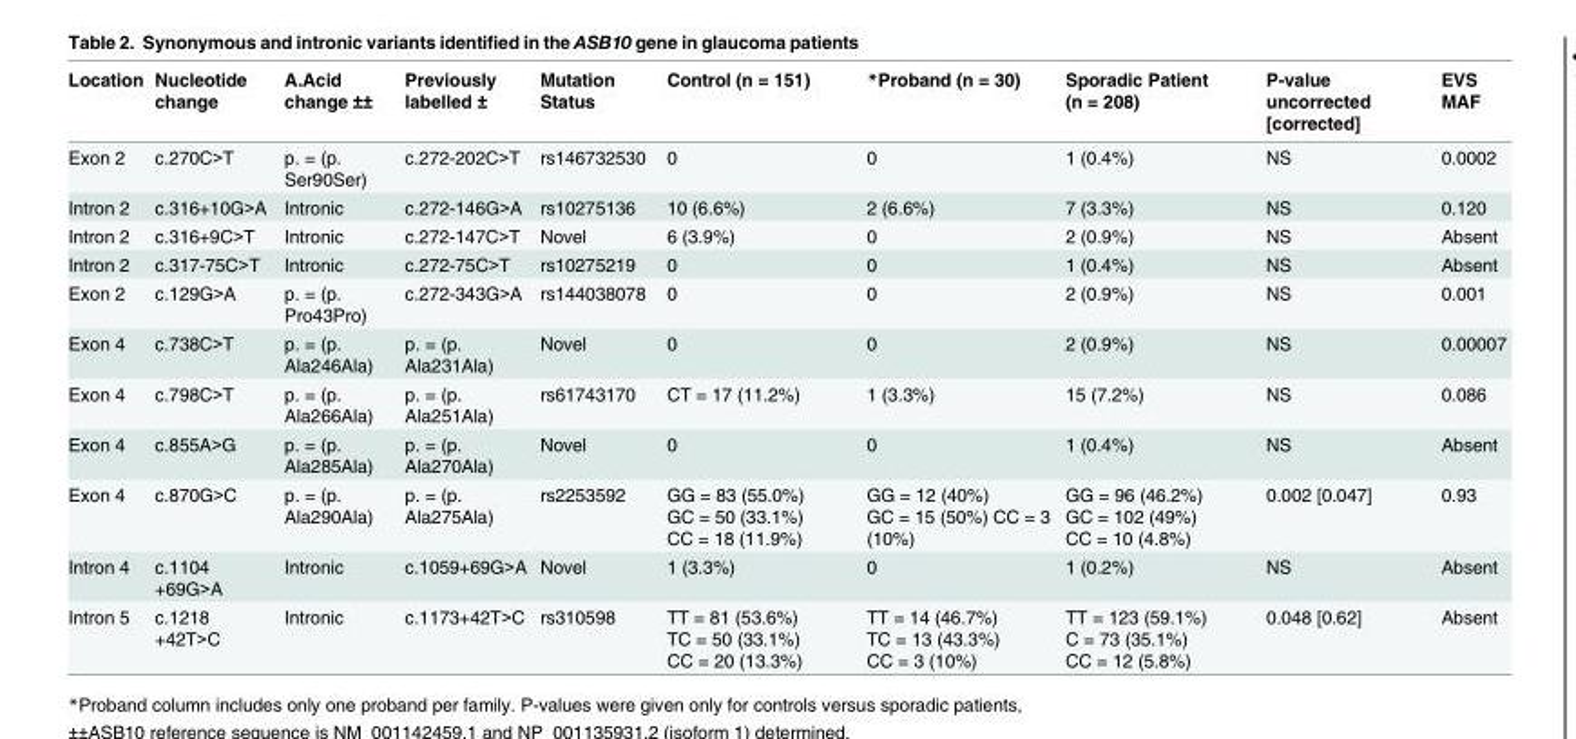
<table><thead><tr><td>Location</td><td>Nucleotide change</td><td>A.Acid change ±±</td><td>Previously labelled ±</td><td>Mutation Status</td><td>Control (n = 151)</td><td>*Proband (n = 30)</td><td>Sporadic Patient (n = 208)</td><td>P-value uncorrected [corrected]</td><td>EVS MAF</td></tr></thead><tbody><tr><td>Exon 2</td><td>c.270C&gt;T</td><td>p. = (p. Ser90Ser)</td><td>c.272-202C&gt;T</td><td>rs146732530</td><td>0</td><td>0</td><td>1 (0.4%)</td><td>NS</td><td>0.0002</td></tr><tr><td>Intron 2</td><td>c.316+10G&gt;A</td><td>Intronic</td><td>c.272-146G&gt;A</td><td>rs10275136</td><td>10 (6.6%)</td><td>2 (6.6%)</td><td>7 (3.3%)</td><td>NS</td><td>0.120</td></tr><tr><td>Intron 2</td><td>c.316+9C&gt;T</td><td>Intronic</td><td>c.272-147C&gt;T</td><td>Novel</td><td>6 (3.9%)</td><td>0</td><td>2 (0.9%)</td><td>NS</td><td>Absent</td></tr><tr><td>Intron 2</td><td>c.317-75C&gt;T</td><td>Intronic</td><td>c.272-75C&gt;T</td><td>rs10275219</td><td>0</td><td>0</td><td>1 (0.4%)</td><td>NS</td><td>Absent</td></tr><tr><td>Exon 2</td><td>c.129G&gt;A</td><td>p. = (p. Pro43Pro)</td><td>c.272-343G&gt;A</td><td>rs144038078</td><td>0</td><td>0</td><td>2 (0.9%)</td><td>NS</td><td>0.001</td></tr><tr><td>Exon 4</td><td>c.738C&gt;T</td><td>p. = (p. Ala246Ala)</td><td>p. = (p. Ala231Ala)</td><td>Novel</td><td>0</td><td>0</td><td>2 (0.9%)</td><td>NS</td><td>0.00007</td></tr><tr><td>Exon 4</td><td>c.798C&gt;T</td><td>p. = (p. Ala266Ala)</td><td>p. = (p. Ala251Ala)</td><td>rs61743170</td><td>CT = 17 (11.2%)</td><td>1 (3.3%)</td><td>15 (7.2%)</td><td>NS</td><td>0.086</td></tr><tr><td>Exon 4</td><td>c.855A&gt;G</td><td>p. = (p. Ala285Ala)</td><td>p. = (p. Ala270Ala)</td><td>Novel</td><td>0</td><td>0</td><td>1 (0.4%)</td><td>NS</td><td>Absent</td></tr><tr><td>Exon 4</td><td>c.870G&gt;C</td><td>p. = (p. Ala290Ala)</td><td>p. = (p. Ala275Ala)</td><td>rs2253592</td><td>GG = 83 (55.0%) GC = 50 (33.1%) CC = 18 (11.9%)</td><td>GG = 12 (40%) GC = 15 (50%) CC = 3 (10%)</td><td>GG = 96 (46.2%) GC = 102 (49%) CC = 10 (4.8%)</td><td>0.002 [0.047]</td><td>0.93</td></tr><tr><td>Intron 4</td><td>c.1104 +69G&gt;A</td><td>Intronic</td><td>c.1059+69G&gt;A</td><td>Novel</td><td>1 (3.3%)</td><td>0</td><td>1 (0.2%)</td><td>NS</td><td>Absent</td></tr><tr><td>Intron 5</td><td>c.1218 +42T&gt;C</td><td>Intronic</td><td>c.1173+42T&gt;C</td><td>rs310598</td><td>TT = 81 (53.6%) TC = 50 (33.1%) CC = 20 (13.3%)</td><td>TT = 14 (46.7%) TC = 13 (43.3%) CC = 3 (10%)</td><td>TT = 123 (59.1%) C = 73 (35.1%) CC = 12 (5.8%)</td><td>0.048 [0.62]</td><td>Absent</td></tr></tbody></table>